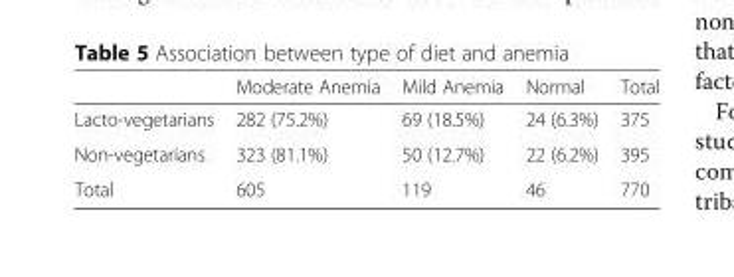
<table><thead><tr><td></td><td>Moderate Anemia</td><td>Mild Anemia</td><td>Normal</td><td>Total</td></tr></thead><tbody><tr><td>Lacto-vegetarians</td><td>282 (75.2%)</td><td>69 (18.5%)</td><td>24 (6.3%)</td><td>375</td></tr><tr><td>Non-vegetarians</td><td>323 (81.1%)</td><td>50 (12.7%)</td><td>22 (6.2%)</td><td>395</td></tr><tr><td>Total</td><td>605</td><td>119</td><td>46</td><td>770</td></tr></tbody></table>